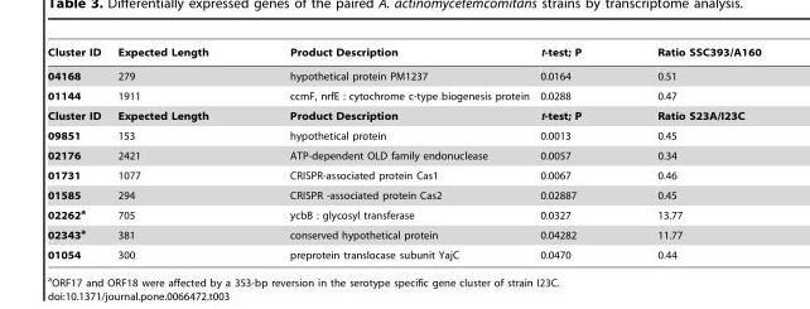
<table><thead><tr><td>Cluster ID</td><td>Expected Length</td><td>Product Description</td><td>t-test; P</td><td>Ratio SSC393/A160</td></tr></thead><tbody><tr><td>04168</td><td>279</td><td>hypothetical protein PM1237</td><td>0.0164</td><td>0.51</td></tr><tr><td>01144</td><td>1911</td><td>ccmF, nrfE : cytochrome c-type biogenesis protein</td><td>0.0288</td><td>0.47</td></tr><tr><td>Cluster ID</td><td>Expected Length</td><td>Product Description</td><td>t-test; P</td><td>Ratio S23A/I23C</td></tr><tr><td>09851</td><td>153</td><td>hypothetical protein</td><td>0.0013</td><td>0.45</td></tr><tr><td>02176</td><td>2421</td><td>ATP-dependent OLD family endonuclease</td><td>0.0057</td><td>0.34</td></tr><tr><td>01731</td><td>1077</td><td>CRISPR-associated protein Cas1</td><td>0.0067</td><td>0.46</td></tr><tr><td>01585</td><td>294</td><td>CRISPR -associated protein Cas2</td><td>0.02887</td><td>0.45</td></tr><tr><td>02262a</td><td>705</td><td>ycbB : glycosyl transferase</td><td>0.0327</td><td>13.77</td></tr><tr><td>02343a</td><td>381</td><td>conserved hypothetical protein</td><td>0.04282</td><td>11.77</td></tr><tr><td>01054</td><td>300</td><td>preprotein translocase subunit YajC</td><td>0.0470</td><td>0.44</td></tr></tbody></table>